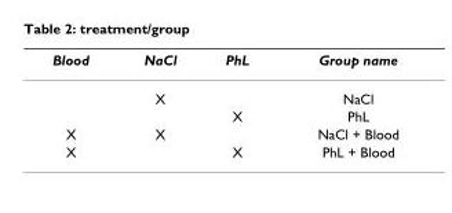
<table><thead><tr><td>Blood</td><td>NaCl</td><td>PhL</td><td>Group name</td></tr></thead><tbody><tr><td></td><td>X</td><td></td><td>NaCl</td></tr><tr><td></td><td></td><td>X</td><td>PhL</td></tr><tr><td>X</td><td>X</td><td></td><td>NaCl + Blood</td></tr><tr><td>X</td><td></td><td>X</td><td>PhL + Blood</td></tr></tbody></table>